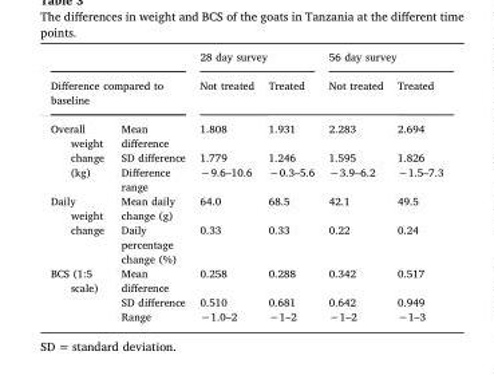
<table><thead><tr><td></td><td></td><td colspan="2">28 day survey</td><td colspan="2">56 day survey</td></tr><tr><td colspan="2">Difference compared to baseline</td><td>Not treated</td><td>Treated</td><td>Not treated</td><td>Treated</td></tr></thead><tbody><tr><td rowspan="3">Overall weight change (kg)</td><td>Mean difference</td><td>1.808</td><td>1.931</td><td>2.283</td><td>2.694</td></tr><tr><td>SD difference</td><td>1.779</td><td>1.246</td><td>1.595</td><td>1.826</td></tr><tr><td>Difference range</td><td>−9.6–10.6</td><td>−0.3–5.6</td><td>−3.9–6.2</td><td>−1.5–7.3</td></tr><tr><td rowspan="2">Daily weight change</td><td>Mean daily change (g)</td><td>64.0</td><td>68.5</td><td>42.1</td><td>49.5</td></tr><tr><td>Daily percentage change (%)</td><td>0.33</td><td>0.33</td><td>0.22</td><td>0.24</td></tr><tr><td rowspan="3">BCS (1:5 scale)</td><td>Mean difference</td><td>0.258</td><td>0.288</td><td>0.342</td><td>0.517</td></tr><tr><td>SD difference</td><td>0.510</td><td>0.681</td><td>0.642</td><td>0.949</td></tr><tr><td>Range</td><td>−1.0–2</td><td>−1–2</td><td>−1–2</td><td>−1–3</td></tr></tbody></table>